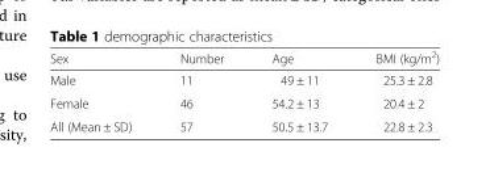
<table><thead><tr><td>Sex</td><td>Number</td><td>Age</td><td>BMI (kg/m<sup>2</sup>)</td></tr></thead><tbody><tr><td>Male</td><td>11</td><td>49 ± 11</td><td>25.3 ± 2.8</td></tr><tr><td>Female</td><td>46</td><td>54.2 ± 13</td><td>20.4 ± 2</td></tr><tr><td>All (Mean ± SD)</td><td>57</td><td>50.5 ± 13.7</td><td>22.8 ± 2.3</td></tr></tbody></table>